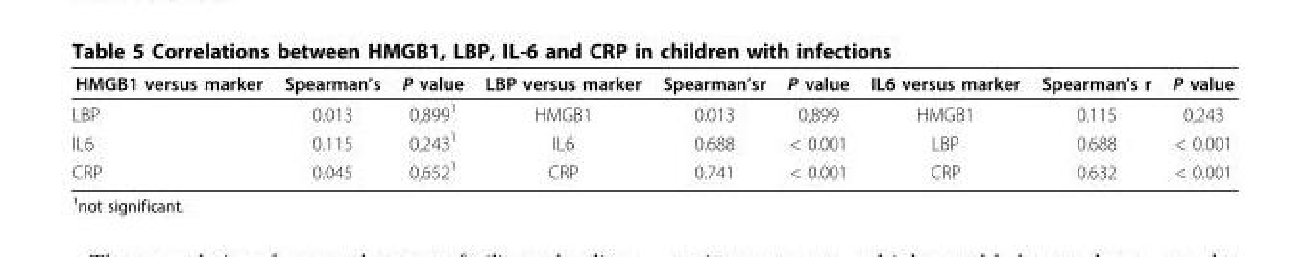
<table><thead><tr><td>HMGB1 versus marker</td><td>Spearman’s</td><td>P value</td><td>LBP versus marker</td><td>Spearman’sr</td><td>P value</td><td>IL6 versus marker</td><td>Spearman’s r</td><td>P value</td></tr></thead><tbody><tr><td>LBP</td><td>0.013</td><td>0,899<sup>1</sup></td><td>HMGB1</td><td>0.013</td><td>0,899</td><td>HMGB1</td><td>0.115</td><td>0,243</td></tr><tr><td>IL6</td><td>0.115</td><td>0,243<sup>1</sup></td><td>IL6</td><td>0.688</td><td>&lt; 0.001</td><td>LBP</td><td>0.688</td><td>&lt; 0.001</td></tr><tr><td>CRP</td><td>0.045</td><td>0,652<sup>1</sup></td><td>CRP</td><td>0.741</td><td>&lt; 0.001</td><td>CRP</td><td>0.632</td><td>&lt; 0.001</td></tr></tbody></table>